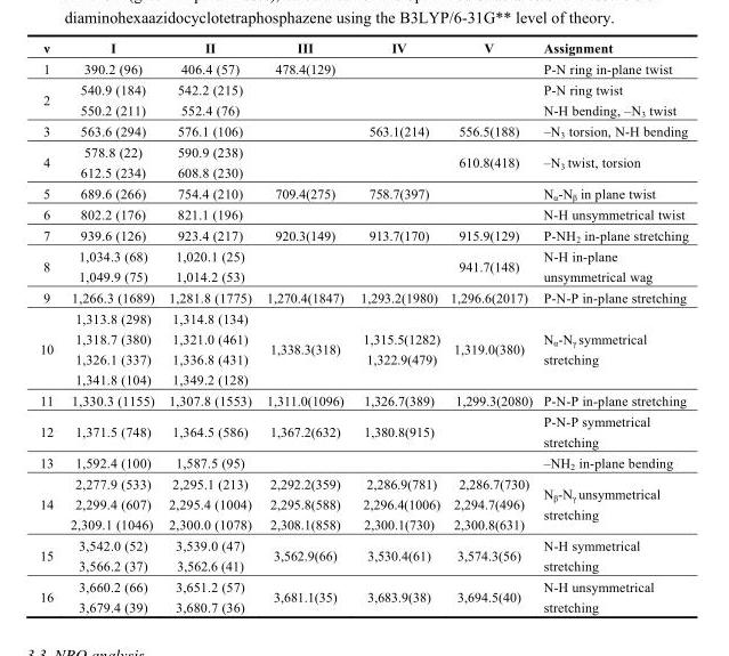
<table><thead><tr><td>ν</td><td>I</td><td>II</td><td>III</td><td>IV</td><td>V</td><td>Assignment</td></tr></thead><tbody><tr><td>1</td><td>390.2 (96)</td><td>406.4 (57)</td><td>478.4(129)</td><td></td><td></td><td>P-N ring in-plane twist</td></tr><tr><td>2</td><td>540.9 (184) 550.2 (211)</td><td>542.2 (215) 552.4 (76)</td><td></td><td></td><td></td><td>P-N ring twist N-H bending, –N<sub>3</sub> twist</td></tr><tr><td>3</td><td>563.6 (294)</td><td>576.1 (106)</td><td></td><td>563.1(214)</td><td>556.5(188)</td><td>–N<sub>3</sub> torsion, N-H bending</td></tr><tr><td>4</td><td>578.8 (22) 612.5 (234)</td><td>590.9 (238) 608.8 (230)</td><td></td><td></td><td>610.8(418)</td><td>–N<sub>3</sub> twist, torsion</td></tr><tr><td>5</td><td>689.6 (266)</td><td>754.4 (210)</td><td>709.4(275)</td><td>758.7(397)</td><td></td><td>N<sub>α</sub>-N<sub>β</sub> in plane twist</td></tr><tr><td>6</td><td>802.2 (176)</td><td>821.1 (196)</td><td></td><td></td><td></td><td>N-H unsymmetrical twist</td></tr><tr><td>7</td><td>939.6 (126)</td><td>923.4 (217)</td><td>920.3(149)</td><td>913.7(170)</td><td>915.9(129)</td><td>P-NH<sub>2</sub> in-plane stretching</td></tr><tr><td>8</td><td>1,034.3 (68) 1,049.9 (75)</td><td>1,020.1 (25) 1,014.2 (53)</td><td></td><td></td><td>941.7(148)</td><td>N-H in-plane unsymmetrical wag</td></tr><tr><td>9</td><td>1,266.3 (1689)</td><td>1,281.8 (1775)</td><td>1,270.4(1847)</td><td>1,293.2(1980)</td><td>1,296.6(2017)</td><td>P-N-P in-plane stretching</td></tr><tr><td>10</td><td>1,313.8 (298) 1,318.7 (380) 1,326.1 (337) 1,341.8 (104)</td><td>1,314.8 (134) 1,321.0 (461) 1,336.8 (431) 1,349.2 (128)</td><td>1,338.3(318)</td><td>1,315.5(1282) 1,322.9(479)</td><td>1,319.0(380)</td><td>N<sub>α</sub>-N<sub>γ</sub> symmetrical stretching</td></tr><tr><td>11</td><td>1,330.3 (1155)</td><td>1,307.8 (1553)</td><td>1,311.0(1096)</td><td>1,326.7(389)</td><td>1,299.3(2080)</td><td>P-N-P in-plane stretching</td></tr><tr><td>12</td><td>1,371.5 (748)</td><td>1,364.5 (586)</td><td>1,367.2(632)</td><td>1,380.8(915)</td><td></td><td>P-N-P symmetrical stretching</td></tr><tr><td>13</td><td>1,592.4 (100)</td><td>1,587.5 (95)</td><td></td><td></td><td></td><td>–NH<sub>2</sub> in-plane bending</td></tr><tr><td>14</td><td>2,277.9 (533) 2,299.4 (607) 2,309.1 (1046)</td><td>2,295.1 (213) 2,295.4 (1004) 2,300.0 (1078)</td><td>2,292.2(359) 2,295.8(588) 2,308.1(858)</td><td>2,286.9(781) 2,296.4(1006) 2,300.1(730)</td><td>2,286.7(730) 2,294.7(496) 2,300.8(631)</td><td>N<sub>β</sub>-N<sub>γ</sub> unsymmetrical stretching</td></tr><tr><td>15</td><td>3,542.0 (52) 3,566.2 (37)</td><td>3,539.0 (47) 3,562.6 (41)</td><td>3,562.9(66)</td><td>3,530.4(61)</td><td>3,574.3(56)</td><td>N-H symmetrical stretching</td></tr><tr><td>16</td><td>3,660.2 (66) 3,679.4 (39)</td><td>3,651.2 (57) 3,680.7 (36)</td><td>3,681.1(35)</td><td>3,683.9(38)</td><td>3,694.5(40)</td><td>N-H unsymmetrical stretching</td></tr></tbody></table>